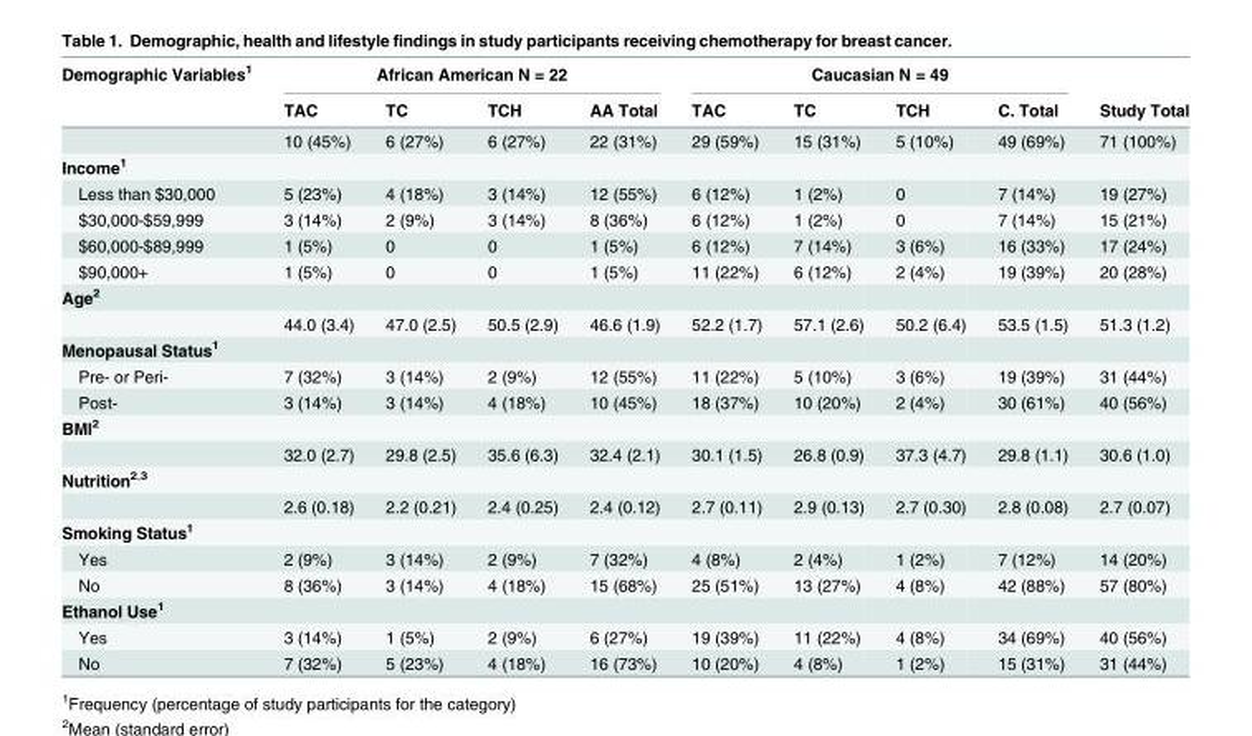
<table><thead><tr><td rowspan="2">Demographic Variables<sup>1</sup></td><td colspan="4">African American N = 22</td><td colspan="4">Caucasian N = 49</td><td rowspan="2">Study Total</td></tr><tr><td>TAC</td><td>TC</td><td>TCH</td><td>AA Total</td><td>TAC</td><td>TC</td><td>TCH</td><td>C. Total</td></tr></thead><tbody><tr><td></td><td>10 (45%)</td><td>6 (27%)</td><td>6 (27%)</td><td>22 (31%)</td><td>29 (59%)</td><td>15 (31%)</td><td>5 (10%)</td><td>49 (69%)</td><td>71 (100%)</td></tr><tr><td colspan="10">Income<sup>1</sup></td></tr><tr><td>Less than $30,000</td><td>5 (23%)</td><td>4 (18%)</td><td>3 (14%)</td><td>12 (55%)</td><td>6 (12%)</td><td>1 (2%)</td><td>0</td><td>7 (14%)</td><td>19 (27%)</td></tr><tr><td>$30,000-$59,999</td><td>3 (14%)</td><td>2 (9%)</td><td>3 (14%)</td><td>8 (36%)</td><td>6 (12%)</td><td>1 (2%)</td><td>0</td><td>7 (14%)</td><td>15 (21%)</td></tr><tr><td>$60,000-$89,999</td><td>1 (5%)</td><td>0</td><td>0</td><td>1 (5%)</td><td>6 (12%)</td><td>7 (14%)</td><td>3 (6%)</td><td>16 (33%)</td><td>17 (24%)</td></tr><tr><td>$90,000+</td><td>1 (5%)</td><td>0</td><td>0</td><td>1 (5%)</td><td>11 (22%)</td><td>6 (12%)</td><td>2 (4%)</td><td>19 (39%)</td><td>20 (28%)</td></tr><tr><td colspan="10">Age<sup>2</sup></td></tr><tr><td></td><td>44.0 (3.4)</td><td>47.0 (2.5)</td><td>50.5 (2.9)</td><td>46.6 (1.9)</td><td>52.2 (1.7)</td><td>57.1 (2.6)</td><td>50.2 (6.4)</td><td>53.5 (1.5)</td><td>51.3 (1.2)</td></tr><tr><td colspan="10">Menopausal Status<sup>1</sup></td></tr><tr><td>Pre- or Peri-</td><td>7 (32%)</td><td>3 (14%)</td><td>2 (9%)</td><td>12 (55%)</td><td>11 (22%)</td><td>5 (10%)</td><td>3 (6%)</td><td>19 (39%)</td><td>31 (44%)</td></tr><tr><td>Post-</td><td>3 (14%)</td><td>3 (14%)</td><td>4 (18%)</td><td>10 (45%)</td><td>18 (37%)</td><td>10 (20%)</td><td>2 (4%)</td><td>30 (61%)</td><td>40 (56%)</td></tr><tr><td colspan="10">BMI<sup>2</sup></td></tr><tr><td></td><td>32.0 (2.7)</td><td>29.8 (2.5)</td><td>35.6 (6.3)</td><td>32.4 (2.1)</td><td>30.1 (1.5)</td><td>26.8 (0.9)</td><td>37.3 (4.7)</td><td>29.8 (1.1)</td><td>30.6 (1.0)</td></tr><tr><td colspan="10">Nutrition<sup>2,3</sup></td></tr><tr><td></td><td>2.6 (0.18)</td><td>2.2 (0.21)</td><td>2.4 (0.25)</td><td>2.4 (0.12)</td><td>2.7 (0.11)</td><td>2.9 (0.13)</td><td>2.7 (0.30)</td><td>2.8 (0.08)</td><td>2.7 (0.07)</td></tr><tr><td colspan="10">Smoking Status<sup>1</sup></td></tr><tr><td>Yes</td><td>2 (9%)</td><td>3 (14%)</td><td>2 (9%)</td><td>7 (32%)</td><td>4 (8%)</td><td>2 (4%)</td><td>1 (2%)</td><td>7 (12%)</td><td>14 (20%)</td></tr><tr><td>No</td><td>8 (36%)</td><td>3 (14%)</td><td>4 (18%)</td><td>15 (68%)</td><td>25 (51%)</td><td>13 (27%)</td><td>4 (8%)</td><td>42 (88%)</td><td>57 (80%)</td></tr><tr><td colspan="10">Ethanol Use<sup>1</sup></td></tr><tr><td>Yes</td><td>3 (14%)</td><td>1 (5%)</td><td>2 (9%)</td><td>6 (27%)</td><td>19 (39%)</td><td>11 (22%)</td><td>4 (8%)</td><td>34 (69%)</td><td>40 (56%)</td></tr><tr><td>No</td><td>7 (32%)</td><td>5 (23%)</td><td>4 (18%)</td><td>16 (73%)</td><td>10 (20%)</td><td>4 (8%)</td><td>1 (2%)</td><td>15 (31%)</td><td>31 (44%)</td></tr></tbody></table>